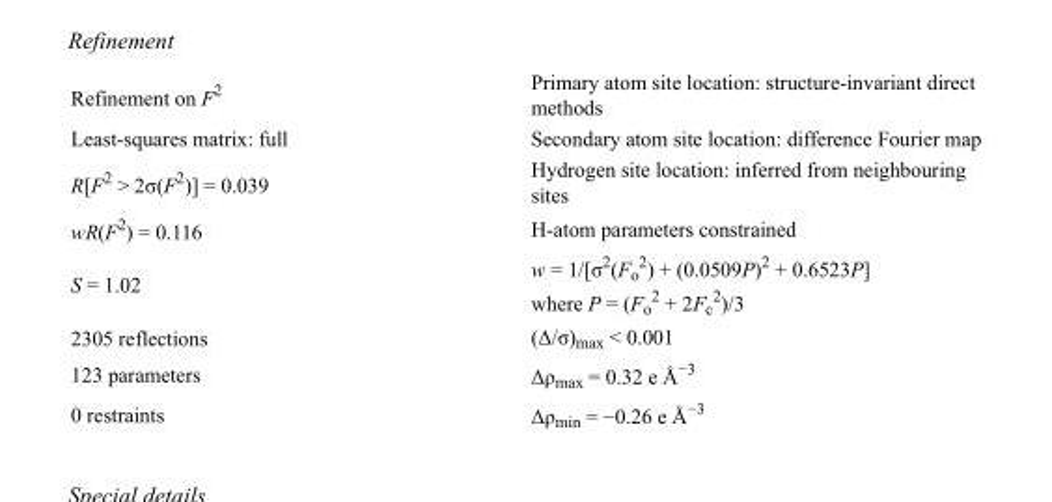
<table><tbody><tr><td>Refinement on F<sup>2</sup></td><td>Primary atom site location: structure-invariant direct methods</td></tr><tr><td>Least-squares matrix: full</td><td>Secondary atom site location: difference Fourier map</td></tr><tr><td>R[F<sup>2</sup> &gt; 2σ(F<sup>2</sup>)] = 0.039</td><td>Hydrogen site location: inferred from neighbouring sites</td></tr><tr><td>wR(F<sup>2</sup>) = 0.116</td><td>H-atom parameters constrained</td></tr><tr><td>S = 1.02</td><td>w = 1/[σ<sup>2</sup>(F<sub>o</sub> <sup>2</sup>) + (0.0509P)<sup>2</sup> + 0.6523P] where P = (F<sub>o</sub> <sup>2</sup> + 2F<sub>c</sub> <sup>2</sup>)/3</td></tr><tr><td>2305 reflections</td><td>(Δ/σ)<sub>max</sub> &lt; 0.001</td></tr><tr><td>123 parameters</td><td>Δρ<sub>max</sub> = 0.32 e Å<sup>−3</sup></td></tr><tr><td>0 restraints</td><td>Δρ<sub>min</sub> = −0.26 e Å<sup>−3</sup></td></tr></tbody></table>